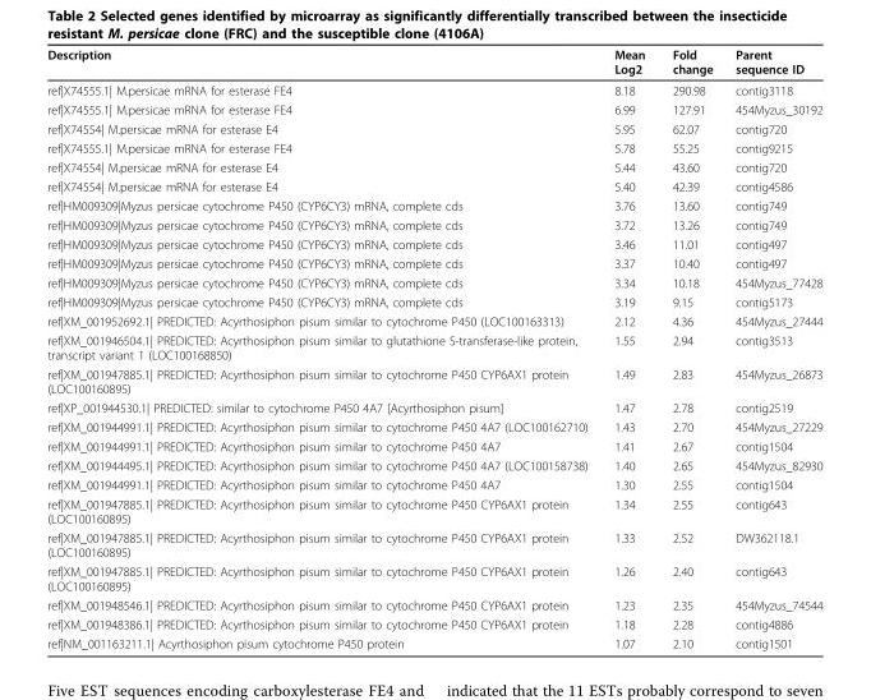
<table><thead><tr><td>Description</td><td>Mean Log2</td><td>Fold change</td><td>Parent sequence ID</td></tr></thead><tbody><tr><td>ref|X74555.1| M.persicae mRNA for esterase FE4</td><td>8.18</td><td>290.98</td><td>contig3118</td></tr><tr><td>ref|X74555.1| M.persicae mRNA for esterase FE4</td><td>6.99</td><td>127.91</td><td>454Myzus_30192</td></tr><tr><td>ref|X74554| M.persicae mRNA for esterase E4</td><td>5.95</td><td>62.07</td><td>contig720</td></tr><tr><td>ref|X74555.1| M.persicae mRNA for esterase FE4</td><td>5.78</td><td>55.25</td><td>contig9215</td></tr><tr><td>ref|X74554| M.persicae mRNA for esterase E4</td><td>5.44</td><td>43.60</td><td>contig720</td></tr><tr><td>ref|X74554| M.persicae mRNA for esterase E4</td><td>5.40</td><td>42.39</td><td>contig4586</td></tr><tr><td>ref|HM009309|Myzus persicae cytochrome P450 (CYP6CY3) mRNA, complete cds</td><td>3.76</td><td>13.60</td><td>contig749</td></tr><tr><td>ref|HM009309|Myzus persicae cytochrome P450 (CYP6CY3) mRNA, complete cds</td><td>3.72</td><td>13.26</td><td>contig749</td></tr><tr><td>ref|HM009309|Myzus persicae cytochrome P450 (CYP6CY3) mRNA, complete cds</td><td>3.46</td><td>11.01</td><td>contig497</td></tr><tr><td>ref|HM009309|Myzus persicae cytochrome P450 (CYP6CY3) mRNA, complete cds</td><td>3.37</td><td>10.40</td><td>contig497</td></tr><tr><td>ref|HM009309|Myzus persicae cytochrome P450 (CYP6CY3) mRNA, complete cds</td><td>3.34</td><td>10.18</td><td>454Myzus_77428</td></tr><tr><td>ref|HM009309|Myzus persicae cytochrome P450 (CYP6CY3) mRNA, complete cds</td><td>3.19</td><td>9.15</td><td>contig5173</td></tr><tr><td>ref|XM_001952692.1| PREDICTED: Acyrthosiphon pisum similar to cytochrome P450 (LOC100163313)</td><td>2.12</td><td>4.36</td><td>454Myzus_27444</td></tr><tr><td>ref|XM_001946504.1| PREDICTED: Acyrthosiphon pisum similar to glutathione S-transferase-like protein, transcript variant 1 (LOC100168850)</td><td>1.55</td><td>2.94</td><td>contig3513</td></tr><tr><td>ref|XM_001947885.1| PREDICTED: Acyrthosiphon pisum similar to cytochrome P450 CYP6AX1 protein (LOC100160895)</td><td>1.49</td><td>2.83</td><td>454Myzus_26873</td></tr><tr><td>ref|XP_001944530.1| PREDICTED: similar to cytochrome P450 4A7 [Acyrthosiphon pisum]</td><td>1.47</td><td>2.78</td><td>contig2519</td></tr><tr><td>ref|XM_001944991.1| PREDICTED: Acyrthosiphon pisum similar to cytochrome P450 4A7 (LOC100162710)</td><td>1.43</td><td>2.70</td><td>454Myzus_27229</td></tr><tr><td>ref|XM_001944991.1| PREDICTED: Acyrthosiphon pisum similar to cytochrome P450 4A7</td><td>1.41</td><td>2.67</td><td>contig1504</td></tr><tr><td>ref|XM_001944495.1| PREDICTED: Acyrthosiphon pisum similar to cytochrome P450 4A7 (LOC100158738)</td><td>1.40</td><td>2.65</td><td>454Myzus_82930</td></tr><tr><td>ref|XM_001944991.1| PREDICTED: Acyrthosiphon pisum similar to cytochrome P450 4A7</td><td>1.30</td><td>2.55</td><td>contig1504</td></tr><tr><td>ref|XM_001947885.1| PREDICTED: Acyrthosiphon pisum similar to cytochrome P450 CYP6AX1 protein (LOC100160895)</td><td>1.34</td><td>2.55</td><td>contig643</td></tr><tr><td>ref|XM_001947885.1| PREDICTED: Acyrthosiphon pisum similar to cytochrome P450 CYP6AX1 protein (LOC100160895)</td><td>1.33</td><td>2.52</td><td>DW362118.1</td></tr><tr><td>ref|XM_001947885.1| PREDICTED: Acyrthosiphon pisum similar to cytochrome P450 CYP6AX1 protein (LOC100160895)</td><td>1.26</td><td>2.40</td><td>contig643</td></tr><tr><td>ref|XM_001948546.1| PREDICTED: Acyrthosiphon pisum similar to cytochrome P450 CYP6AX1 protein</td><td>1.23</td><td>2.35</td><td>454Myzus_74544</td></tr><tr><td>ref|XM_001948386.1| PREDICTED: Acyrthosiphon pisum similar to cytochrome P450 CYP6AX1 protein</td><td>1.18</td><td>2.28</td><td>contig4886</td></tr><tr><td>ref|NM_001163211.1| Acyrthosiphon pisum cytochrome P450 protein</td><td>1.07</td><td>2.10</td><td>contig1501</td></tr></tbody></table>